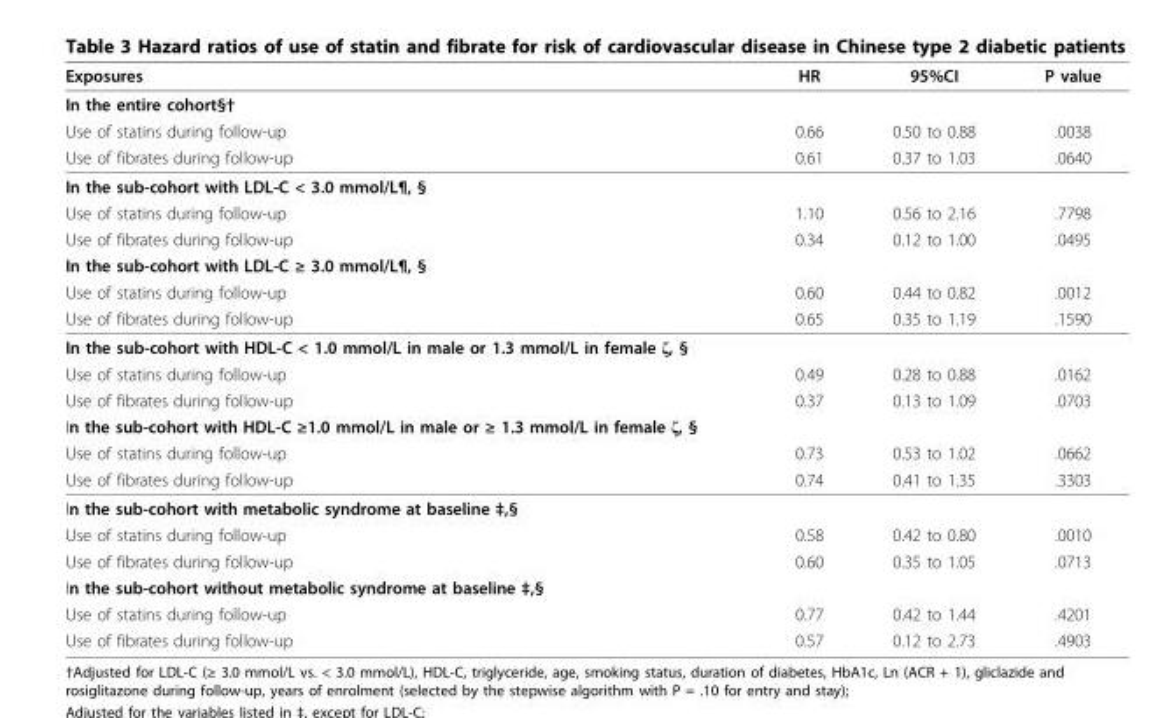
<table><thead><tr><td>Exposures</td><td>HR</td><td>95%CI</td><td>P value</td></tr></thead><tbody><tr><td colspan="4">In the entire cohort§†</td></tr><tr><td>Use of statins during follow-up</td><td>0.66</td><td>0.50 to 0.88</td><td>.0038</td></tr><tr><td>Use of fibrates during follow-up</td><td>0.61</td><td>0.37 to 1.03</td><td>.0640</td></tr><tr><td colspan="4">In the sub-cohort with LDL-C &lt; 3.0 mmol/L¶, §</td></tr><tr><td>Use of statins during follow-up</td><td>1.10</td><td>0.56 to 2.16</td><td>.7798</td></tr><tr><td>Use of fibrates during follow-up</td><td>0.34</td><td>0.12 to 1.00</td><td>.0495</td></tr><tr><td colspan="4">In the sub-cohort with LDL-C ≥ 3.0 mmol/L¶, §</td></tr><tr><td>Use of statins during follow-up</td><td>0.60</td><td>0.44 to 0.82</td><td>.0012</td></tr><tr><td>Use of fibrates during follow-up</td><td>0.65</td><td>0.35 to 1.19</td><td>.1590</td></tr><tr><td colspan="4">In the sub-cohort with HDL-C &lt; 1.0 mmol/L in male or 1.3 mmol/L in female ζ, §</td></tr><tr><td>Use of statins during follow-up</td><td>0.49</td><td>0.28 to 0.88</td><td>.0162</td></tr><tr><td>Use of fibrates during follow-up</td><td>0.37</td><td>0.13 to 1.09</td><td>.0703</td></tr><tr><td colspan="4">In the sub-cohort with HDL-C ≥1.0 mmol/L in male or ≥ 1.3 mmol/L in female ζ, §</td></tr><tr><td>Use of statins during follow-up</td><td>0.73</td><td>0.53 to 1.02</td><td>.0662</td></tr><tr><td>Use of fibrates during follow-up</td><td>0.74</td><td>0.41 to 1.35</td><td>.3303</td></tr><tr><td colspan="4">In the sub-cohort with metabolic syndrome at baseline ‡,§</td></tr><tr><td>Use of statins during follow-up</td><td>0.58</td><td>0.42 to 0.80</td><td>.0010</td></tr><tr><td>Use of fibrates during follow-up</td><td>0.60</td><td>0.35 to 1.05</td><td>.0713</td></tr><tr><td colspan="4">In the sub-cohort without metabolic syndrome at baseline ‡,§</td></tr><tr><td>Use of statins during follow-up</td><td>0.77</td><td>0.42 to 1.44</td><td>.4201</td></tr><tr><td>Use of fibrates during follow-up</td><td>0.57</td><td>0.12 to 2.73</td><td>.4903</td></tr></tbody></table>